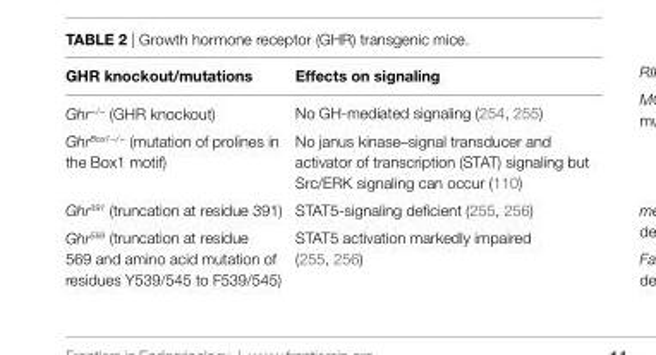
<table><thead><tr><td>GHR knockout/mutations</td><td>effects on signaling</td></tr></thead><tbody><tr><td>Ghr<sup>−/−</sup> (GHR knockout)</td><td>No GH-mediated signaling (254, 255)</td></tr><tr><td>Ghr<sup>Box1−/−</sup> (mutation of prolines in the Box1 motif)</td><td>No janus kinase–signal transducer and activator of transcription (STAT) signaling but Src/ERK signaling can occur (110)</td></tr><tr><td>Ghr<sup>391</sup> (truncation at residue 391)</td><td>STAT5-signaling deficient (255, 256)</td></tr><tr><td>Ghr<sup>569</sup> (truncation at residue 569 and amino acid mutation of residues Y539/545 to F539/545)</td><td>STAT5 activation markedly impaired (255, 256)</td></tr></tbody></table>